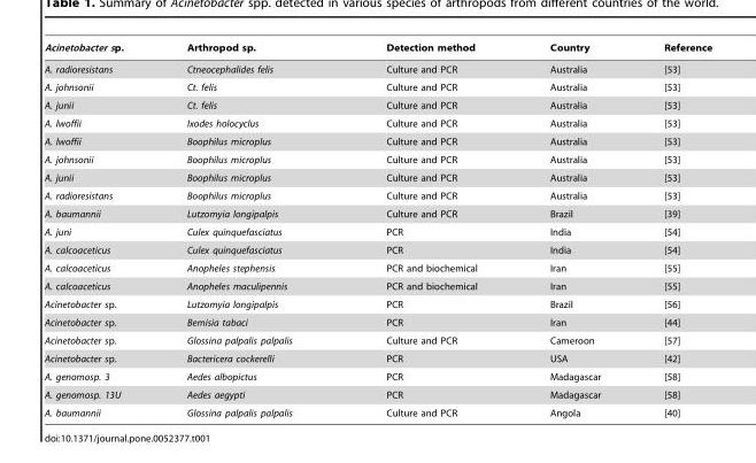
<table><thead><tr><td>Acinetobacter sp.</td><td>Arthropod sp.</td><td>Detection method</td><td>Country</td><td>Reference</td></tr></thead><tbody><tr><td>A. radioresistans</td><td>Ctneocephalides felis</td><td>Culture and PCR</td><td>Australia</td><td>[53]</td></tr><tr><td>A. johnsonii</td><td>Ct. felis</td><td>Culture and PCR</td><td>Australia</td><td>[53]</td></tr><tr><td>A. junii</td><td>Ct. felis</td><td>Culture and PCR</td><td>Australia</td><td>[53]</td></tr><tr><td>A. lwoffii</td><td>Ixodes holocyclus</td><td>Culture and PCR</td><td>Australia</td><td>[53]</td></tr><tr><td>A. lwoffii</td><td>Boophilus microplus</td><td>Culture and PCR</td><td>Australia</td><td>[53]</td></tr><tr><td>A. johnsonii</td><td>Boophilus microplus</td><td>Culture and PCR</td><td>Australia</td><td>[53]</td></tr><tr><td>A. junii</td><td>Boophilus microplus</td><td>Culture and PCR</td><td>Australia</td><td>[53]</td></tr><tr><td>A. radioresistans</td><td>Boophilus microplus</td><td>Culture and PCR</td><td>Australia</td><td>[53]</td></tr><tr><td>A. baumannii</td><td>Lutzomyia longipalpis</td><td>Culture and PCR</td><td>Brazil</td><td>[39]</td></tr><tr><td>A. juni</td><td>Culex quinquefasciatus</td><td>PCR</td><td>India</td><td>[54]</td></tr><tr><td>A. calcoaceticus</td><td>Culex quinquefasciatus</td><td>PCR</td><td>India</td><td>[54]</td></tr><tr><td>A. calcoaceticus</td><td>Anopheles stephensis</td><td>PCR and biochemical</td><td>Iran</td><td>[55]</td></tr><tr><td>A. calcoaceticus</td><td>Anopheles maculipennis</td><td>PCR and biochemical</td><td>Iran</td><td>[55]</td></tr><tr><td>Acinetobacter sp.</td><td>Lutzomyia longipalpis</td><td>PCR</td><td>Brazil</td><td>[56]</td></tr><tr><td>Acinetobacter sp.</td><td>Bemisia tabaci</td><td>PCR</td><td>Iran</td><td>[44]</td></tr><tr><td>Acinetobacter sp.</td><td>Glossina palpalis palpalis</td><td>Culture and PCR</td><td>Cameroon</td><td>[57]</td></tr><tr><td>Acinetobacter sp.</td><td>Bactericera cockerelli</td><td>PCR</td><td>USA</td><td>[42]</td></tr><tr><td>A. genomosp. 3</td><td>Aedes albopictus</td><td>PCR</td><td>Madagascar</td><td>[58]</td></tr><tr><td>A. genomosp. 13U</td><td>Aedes aegypti</td><td>PCR</td><td>Madagascar</td><td>[58]</td></tr><tr><td>A. baumannii</td><td>Glossina palpalis palpalis</td><td>Culture and PCR</td><td>Angola</td><td>[40]</td></tr></tbody></table>